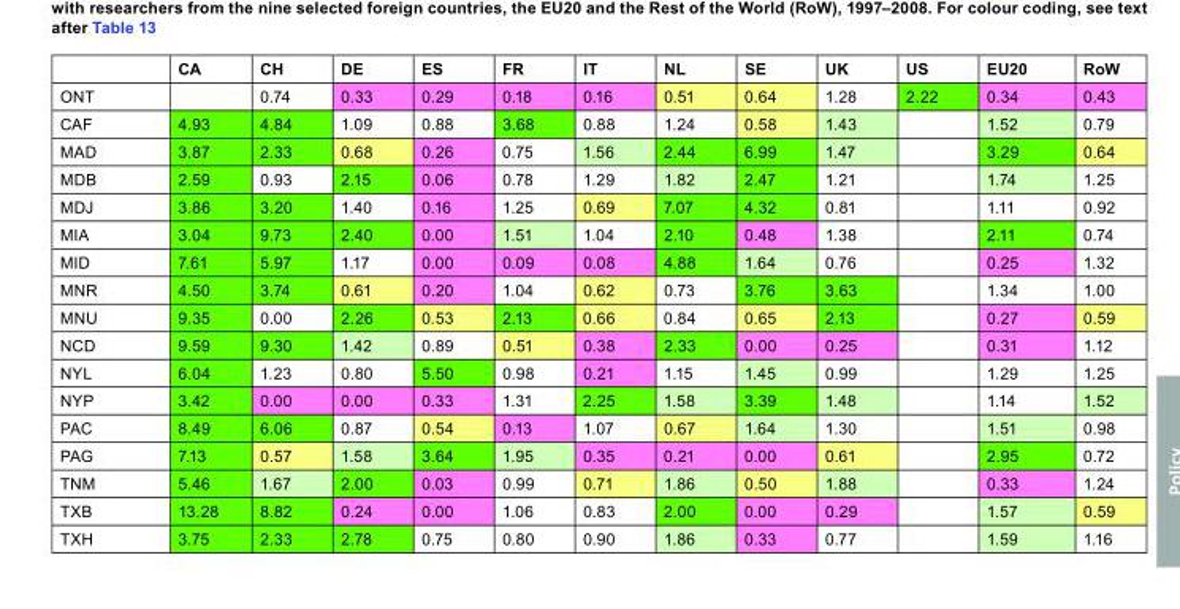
<table><thead><tr><td></td><td>CA</td><td>CH</td><td>DE</td><td>ES</td><td>FR</td><td>IT</td><td>NL</td><td>SE</td><td>UK</td><td>US</td><td>EU20</td><td>RoW</td></tr></thead><tbody><tr><td>ONT</td><td></td><td>0.74</td><td>0.33</td><td>0.29</td><td>0.18</td><td>0.16</td><td>0.51</td><td>0.64</td><td>1.28</td><td>2.22</td><td>0.34</td><td>0.43</td></tr><tr><td>CAF</td><td>4.93</td><td>4.84</td><td>1.09</td><td>0.88</td><td>3.68</td><td>0.88</td><td>1.24</td><td>0.58</td><td>1.43</td><td></td><td>1.52</td><td>0.79</td></tr><tr><td>MAD</td><td>3.87</td><td>2.33</td><td>0.68</td><td>0.26</td><td>0.75</td><td>1.56</td><td>2.44</td><td>6.99</td><td>1.47</td><td></td><td>3.29</td><td>0.64</td></tr><tr><td>MDB</td><td>2.59</td><td>0.93</td><td>2.15</td><td>0.06</td><td>0.78</td><td>1.29</td><td>1.82</td><td>2.47</td><td>1.21</td><td></td><td>1.74</td><td>1.25</td></tr><tr><td>MDJ</td><td>3.86</td><td>3.20</td><td>1.40</td><td>0.16</td><td>1.25</td><td>0.69</td><td>7.07</td><td>4.32</td><td>0.81</td><td></td><td>1.11</td><td>0.92</td></tr><tr><td>MIA</td><td>3.04</td><td>9.73</td><td>2.40</td><td>0.00</td><td>1.51</td><td>1.04</td><td>2.10</td><td>0.48</td><td>1.38</td><td></td><td>2.11</td><td>0.74</td></tr><tr><td>MID</td><td>7.61</td><td>5.97</td><td>1.17</td><td>0.00</td><td>0.09</td><td>0.08</td><td>4.88</td><td>1.64</td><td>0.76</td><td></td><td>0.25</td><td>1.32</td></tr><tr><td>MNR</td><td>4.50</td><td>3.74</td><td>0.61</td><td>0.20</td><td>1.04</td><td>0.62</td><td>0.73</td><td>3.76</td><td>3.63</td><td></td><td>1.34</td><td>1.00</td></tr><tr><td>MNU</td><td>9.35</td><td>0.00</td><td>2.26</td><td>0.53</td><td>2.13</td><td>0.66</td><td>0.84</td><td>0.65</td><td>2.13</td><td></td><td>0.27</td><td>0.59</td></tr><tr><td>NCD</td><td>9.59</td><td>9.30</td><td>1.42</td><td>0.89</td><td>0.51</td><td>0.38</td><td>2.33</td><td>0.00</td><td>0.25</td><td></td><td>0.31</td><td>1.12</td></tr><tr><td>NYL</td><td>6.04</td><td>1.23</td><td>0.80</td><td>5.50</td><td>0.98</td><td>0.21</td><td>1.15</td><td>1.45</td><td>0.99</td><td></td><td>1.29</td><td>1.25</td></tr><tr><td>NYP</td><td>3.42</td><td>0.00</td><td>0.00</td><td>0.33</td><td>1.31</td><td>2.25</td><td>1.58</td><td>3.39</td><td>1.48</td><td></td><td>1.14</td><td>1.52</td></tr><tr><td>PAC</td><td>8.49</td><td>6.06</td><td>0.87</td><td>0.54</td><td>0.13</td><td>1.07</td><td>0.67</td><td>1.64</td><td>1.30</td><td></td><td>1.51</td><td>0.98</td></tr><tr><td>PAG</td><td>7.13</td><td>0.57</td><td>1.58</td><td>3.64</td><td>1.95</td><td>0.35</td><td>0.21</td><td>0.00</td><td>0.61</td><td></td><td>2.95</td><td>0.72</td></tr><tr><td>TNM</td><td>5.46</td><td>1.67</td><td>2.00</td><td>0.03</td><td>0.99</td><td>0.71</td><td>1.86</td><td>0.50</td><td>1.88</td><td></td><td>0.33</td><td>1.24</td></tr><tr><td>TXB</td><td>13.28</td><td>8.82</td><td>0.24</td><td>0.00</td><td>1.06</td><td>0.83</td><td>2.00</td><td>0.00</td><td>0.29</td><td></td><td>1.57</td><td>0.59</td></tr><tr><td>TXH</td><td>3.75</td><td>2.33</td><td>2.78</td><td>0.75</td><td>0.80</td><td>0.90</td><td>1.86</td><td>0.33</td><td>0.77</td><td></td><td>1.59</td><td>1.16</td></tr></tbody></table>